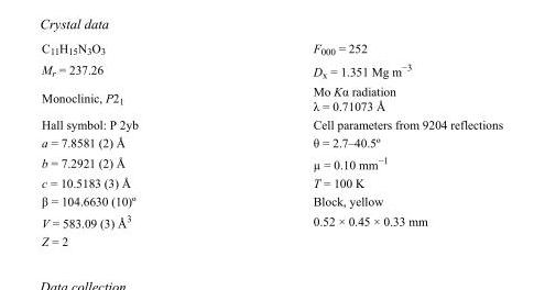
<table><tbody><tr><td>C<sub>11</sub>H<sub>15</sub>N<sub>3</sub>O<sub>3</sub></td><td>F000 = 252</td></tr><tr><td>M<sub>r</sub> = 237.26</td><td>D<sub>x</sub> = 1.351 Mg m<sup>−3</sup></td></tr><tr><td>Monoclinic, P2<sub>1</sub></td><td>Mo Kα radiation λ = 0.71073 Å</td></tr><tr><td>Hall symbol: P 2yb</td><td>Cell parameters from 9204 reflections</td></tr><tr><td>a = 7.8581 (2) Å</td><td>θ = 2.7–40.5º</td></tr><tr><td>b = 7.2921 (2) Å</td><td>µ = 0.10 mm<sup>−1</sup></td></tr><tr><td>c = 10.5183 (3) Å</td><td>T = 100 K</td></tr><tr><td>β = 104.6630 (10)º</td><td>Block, yellow</td></tr><tr><td>V = 583.09 (3) Å<sup>3</sup></td><td>0.52 × 0.45 × 0.33 mm</td></tr><tr><td>Z = 2</td><td></td></tr></tbody></table>